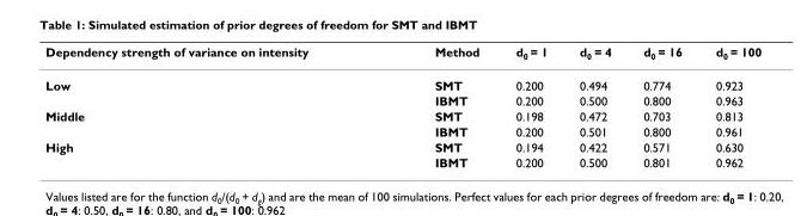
<table><thead><tr><td>Dependency strength of variance on intensity</td><td>Method</td><td>d<sub>0</sub> = 1</td><td>d<sub>0</sub> = 4</td><td>d<sub>0</sub> = 16</td><td>d<sub>0</sub> = 100</td></tr></thead><tbody><tr><td rowspan="2">Low</td><td>SMT</td><td>0.200</td><td>0.494</td><td>0.774</td><td>0.923</td></tr><tr><td>IBMT</td><td>0.200</td><td>0.500</td><td>0.800</td><td>0.963</td></tr><tr><td rowspan="2">Middle</td><td>SMT</td><td>0.198</td><td>0.472</td><td>0.703</td><td>0.813</td></tr><tr><td>IBMT</td><td>0.200</td><td>0.501</td><td>0.800</td><td>0.961</td></tr><tr><td rowspan="2">High</td><td>SMT</td><td>0.194</td><td>0.422</td><td>0.571</td><td>0.630</td></tr><tr><td>IBMT</td><td>0.200</td><td>0.500</td><td>0.801</td><td>0.962</td></tr></tbody></table>